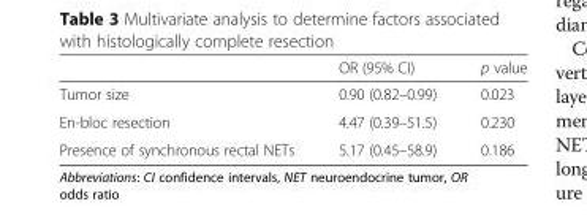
<table><thead><tr><td></td><td>OR (95% CI)</td><td>p value</td></tr></thead><tbody><tr><td>Tumor size</td><td>0.90 (0.82–0.99)</td><td>0.023</td></tr><tr><td>En-bloc resection</td><td>4.47 (0.39–51.5)</td><td>0.230</td></tr><tr><td>Presence of synchronous rectal NETs</td><td>5.17 (0.45–58.9)</td><td>0.186</td></tr></tbody></table>